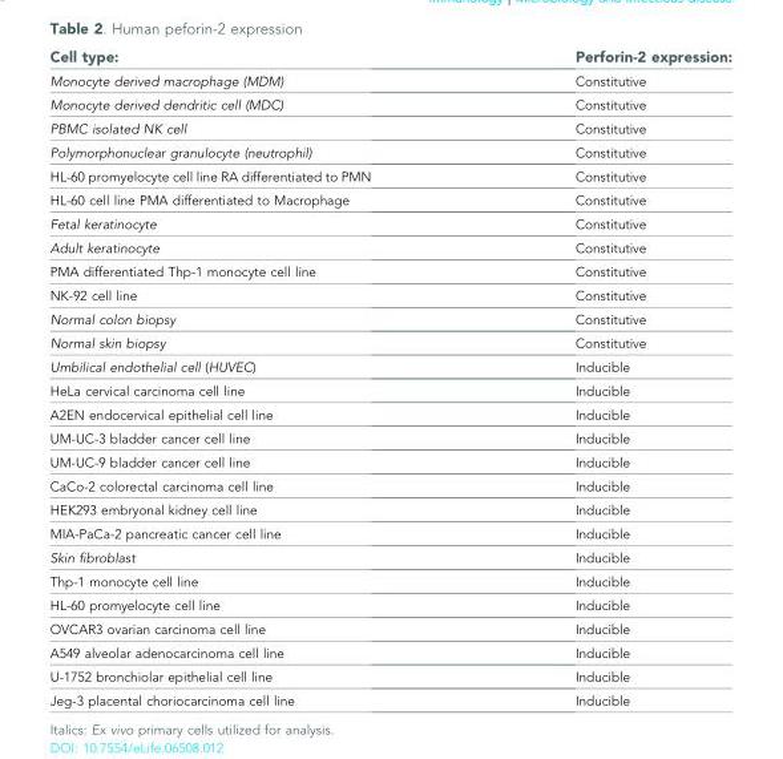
<table><thead><tr><td>Cell type:</td><td>Perforin-2 expression:</td></tr></thead><tbody><tr><td>Monocyte derived macrophage (MDM)</td><td>Constitutive</td></tr><tr><td>Monocyte derived dendritic cell (MDC)</td><td>Constitutive</td></tr><tr><td>PBMC isolated NK cell</td><td>Constitutive</td></tr><tr><td>Polymorphonuclear granulocyte (neutrophil)</td><td>Constitutive</td></tr><tr><td>HL-60 promyelocyte cell line RA differentiated to PMN</td><td>Constitutive</td></tr><tr><td>HL-60 cell line PMA differentiated to Macrophage</td><td>Constitutive</td></tr><tr><td>Fetal keratinocyte</td><td>Constitutive</td></tr><tr><td>Adult keratinocyte</td><td>Constitutive</td></tr><tr><td>PMA differentiated Thp-1 monocyte cell line</td><td>Constitutive</td></tr><tr><td>NK-92 cell line</td><td>Constitutive</td></tr><tr><td>Normal colon biopsy</td><td>Constitutive</td></tr><tr><td>Normal skin biopsy</td><td>Constitutive</td></tr><tr><td>Umbilical endothelial cell (HUVEC)</td><td>Inducible</td></tr><tr><td>HeLa cervical carcinoma cell line</td><td>Inducible</td></tr><tr><td>A2EN endocervical epithelial cell line</td><td>Inducible</td></tr><tr><td>UM-UC-3 bladder cancer cell line</td><td>Inducible</td></tr><tr><td>UM-UC-9 bladder cancer cell line</td><td>Inducible</td></tr><tr><td>CaCo-2 colorectal carcinoma cell line</td><td>Inducible</td></tr><tr><td>HEK293 embryonal kidney cell line</td><td>Inducible</td></tr><tr><td>MIA-PaCa-2 pancreatic cancer cell line</td><td>Inducible</td></tr><tr><td>Skin fibroblast</td><td>Inducible</td></tr><tr><td>Thp-1 monocyte cell line</td><td>Inducible</td></tr><tr><td>HL-60 promyelocyte cell line</td><td>Inducible</td></tr><tr><td>OVCAR3 ovarian carcinoma cell line</td><td>Inducible</td></tr><tr><td>A549 alveolar adenocarcinoma cell line</td><td>Inducible</td></tr><tr><td>U-1752 bronchiolar epithelial cell line</td><td>Inducible</td></tr><tr><td>Jeg-3 placental choriocarcinoma cell line</td><td>Inducible</td></tr></tbody></table>